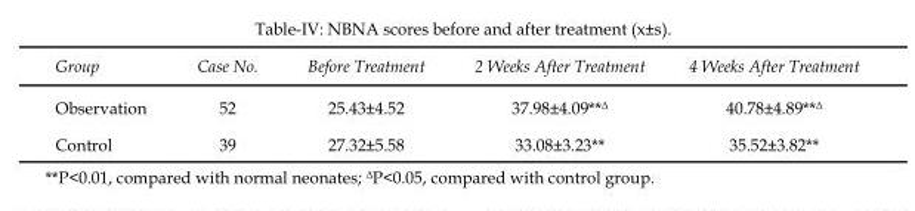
<table><thead><tr><td>Group</td><td>Case No.</td><td>Before Treatment</td><td>2 Weeks After Treatment</td><td>4 Weeks After Treatment</td></tr></thead><tbody><tr><td>Observation</td><td>52</td><td>25.43±4.52</td><td>37.98±4.09**<sup>Δ</sup></td><td>40.78±4.89**<sup>Δ</sup></td></tr><tr><td>Control</td><td>39</td><td>27.32±5.58</td><td>33.08±3.23**</td><td>35.52±3.82**</td></tr></tbody></table>